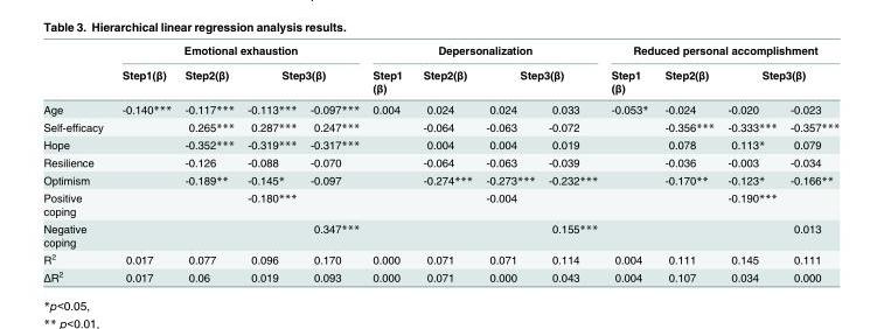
<table><thead><tr><td rowspan="3">Age</td><td colspan="4">Emotional exhaustion</td><td colspan="4">Depersonalization</td><td colspan="4">Reduced personal accomplishment</td></tr><tr><td rowspan="2">Step1(β) -0.140***</td><td rowspan="2">Step2(β) -0.117***</td><td colspan="2">Step3(β)</td><td rowspan="2">Step1 (β) 0.004</td><td rowspan="2">Step2(β) 0.024</td><td colspan="2">Step3(β)</td><td rowspan="2">Step1 (β) -0.053*</td><td rowspan="2">Step2(β) -0.024</td><td colspan="2">Step3(β)</td></tr><tr><td>-0.113***</td><td>-0.097***</td><td>0.024</td><td>0.033</td><td>-0.020</td><td>-0.023</td></tr></thead><tbody><tr><td>Self-efficacy</td><td></td><td>0.265***</td><td>0.287***</td><td>0.247***</td><td></td><td>-0.064</td><td>-0.063</td><td>-0.072</td><td></td><td>-0.356***</td><td>-0.333***</td><td>-0.357***</td></tr><tr><td>Hope</td><td></td><td>-0.352***</td><td>-0.319***</td><td>-0.317***</td><td></td><td>0.004</td><td>0.004</td><td>0.019</td><td></td><td>0.078</td><td>0.113*</td><td>0.079</td></tr><tr><td>Resilience</td><td></td><td>-0.126</td><td>-0.088</td><td>-0.070</td><td></td><td>-0.064</td><td>-0.063</td><td>-0.039</td><td></td><td>-0.036</td><td>-0.003</td><td>-0.034</td></tr><tr><td>Optimism</td><td></td><td>-0.189**</td><td>-0.145*</td><td>-0.097</td><td></td><td>-0.274***</td><td>-0.273***</td><td>-0.232***</td><td></td><td>-0.170**</td><td>-0.123*</td><td>-0.166**</td></tr><tr><td>Positive coping</td><td></td><td></td><td>-0.180***</td><td></td><td></td><td></td><td>-0.004</td><td></td><td></td><td></td><td>-0.190***</td><td></td></tr><tr><td>Negative coping</td><td></td><td></td><td></td><td>0.347***</td><td></td><td></td><td></td><td>0.155***</td><td></td><td></td><td></td><td>0.013</td></tr><tr><td>R<sup>2</sup></td><td>0.017</td><td>0.077</td><td>0.096</td><td>0.170</td><td>0.000</td><td>0.071</td><td>0.071</td><td>0.114</td><td>0.004</td><td>0.111</td><td>0.145</td><td>0.111</td></tr><tr><td>ΔR<sup>2</sup></td><td>0.017</td><td>0.06</td><td>0.019</td><td>0.093</td><td>0.000</td><td>0.071</td><td>0.000</td><td>0.043</td><td>0.004</td><td>0.107</td><td>0.034</td><td>0.000</td></tr></tbody></table>